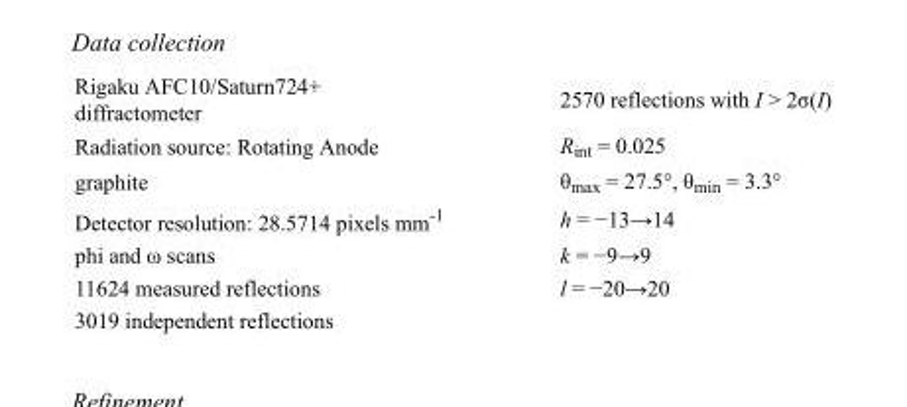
<table><tbody><tr><td>Rigaku AFC10/Saturn724+ diffractometer</td><td>2570 reflections with I &gt; 2σ(I)</td></tr><tr><td>Radiation source: Rotating Anode</td><td>R<sub>int</sub> = 0.025</td></tr><tr><td>graphite</td><td>θ<sub>max</sub> = 27.5°, θ<sub>min</sub> = 3.3°</td></tr><tr><td>Detector resolution: 28.5714 pixels mm<sup>-1</sup></td><td>h = −13→14</td></tr><tr><td>phi and ω scans</td><td>k = −9→9</td></tr><tr><td>11624 measured reflections</td><td>l = −20→20</td></tr><tr><td>3019 independent reflections</td><td></td></tr></tbody></table>